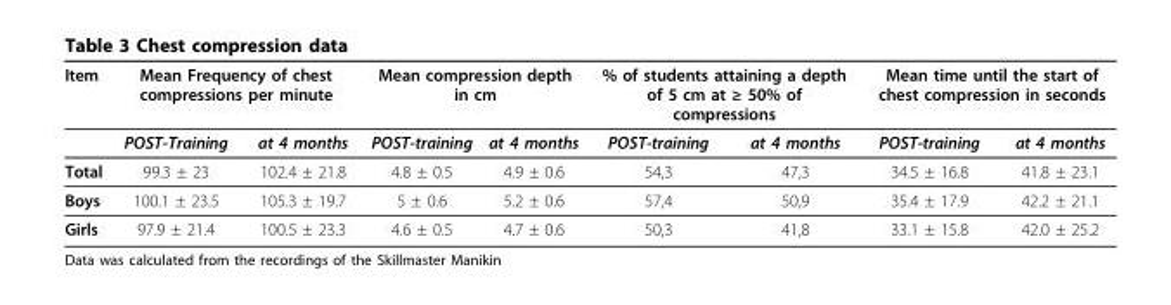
<table><thead><tr><td rowspan="2">Item</td><td colspan="2">Mean Frequency of chest compressions per minute</td><td colspan="2">Mean compression depth in cm</td><td colspan="2">% of students attaining a depth of 5 cm at ≥ 50% of compressions</td><td colspan="2">Mean time until the start of chest compression in seconds</td></tr><tr><td>POST-Training</td><td>at 4 months</td><td>POST-training</td><td>at 4 months</td><td>POST-training</td><td>at 4 months</td><td>POST-training</td><td>at 4 months</td></tr></thead><tbody><tr><td>Total</td><td>99.3 ± 23</td><td>102.4 ± 21.8</td><td>4.8 ± 0.5</td><td>4.9 ± 0.6</td><td>54,3</td><td>47,3</td><td>34.5 ± 16.8</td><td>41.8 ± 23.1</td></tr><tr><td>Boys</td><td>100.1 ± 23.5</td><td>105.3 ± 19.7</td><td>5 ± 0.6</td><td>5.2 ± 0.6</td><td>57,4</td><td>50,9</td><td>35.4 ± 17.9</td><td>42.2 ± 21.1</td></tr><tr><td>Girls</td><td>97.9 ± 21.4</td><td>100.5 ± 23.3</td><td>4.6 ± 0.5</td><td>4.7 ± 0.6</td><td>50,3</td><td>41,8</td><td>33.1 ± 15.8</td><td>42.0 ± 25.2</td></tr></tbody></table>